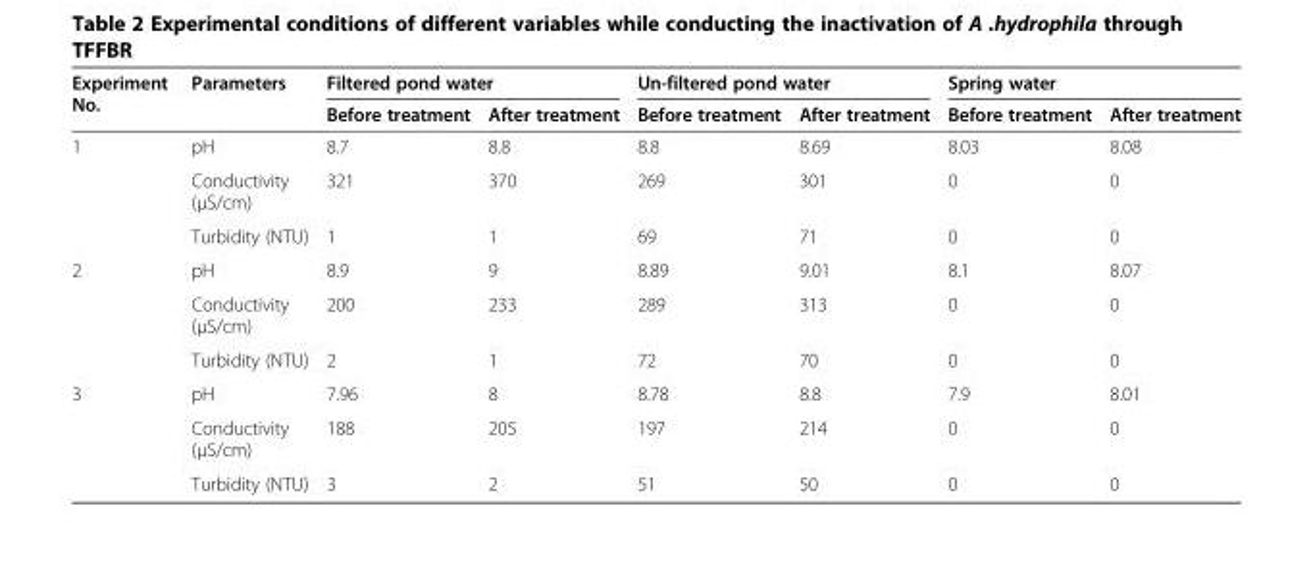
<table><thead><tr><td rowspan="2">Experiment No.</td><td rowspan="2">Parameters</td><td colspan="2">Filtered pond water</td><td colspan="2">Un-filtered pond water</td><td colspan="2">Spring water</td></tr><tr><td>Before treatment</td><td>After treatment</td><td>Before treatment</td><td>After treatment</td><td>Before treatment</td><td>After treatment</td></tr></thead><tbody><tr><td rowspan="3">1</td><td>pH</td><td>8.7</td><td>8.8</td><td>8.8</td><td>8.69</td><td>8.03</td><td>8.08</td></tr><tr><td>Conductivity (μS/cm)</td><td>321</td><td>370</td><td>269</td><td>301</td><td>0</td><td>0</td></tr><tr><td>Turbidity (NTU)</td><td>1</td><td>1</td><td>69</td><td>71</td><td>0</td><td>0</td></tr><tr><td rowspan="3">2</td><td>pH</td><td>8.9</td><td>9</td><td>8.89</td><td>9.01</td><td>8.1</td><td>8.07</td></tr><tr><td>Conductivity (μS/cm)</td><td>200</td><td>233</td><td>289</td><td>313</td><td>0</td><td>0</td></tr><tr><td>Turbidity (NTU)</td><td>2</td><td>1</td><td>72</td><td>70</td><td>0</td><td>0</td></tr><tr><td rowspan="3">3</td><td>pH</td><td>7.96</td><td>8</td><td>8.78</td><td>8.8</td><td>7.9</td><td>8.01</td></tr><tr><td>Conductivity (μS/cm)</td><td>188</td><td>205</td><td>197</td><td>214</td><td>0</td><td>0</td></tr><tr><td>Turbidity (NTU)</td><td>3</td><td>2</td><td>51</td><td>50</td><td>0</td><td>0</td></tr></tbody></table>